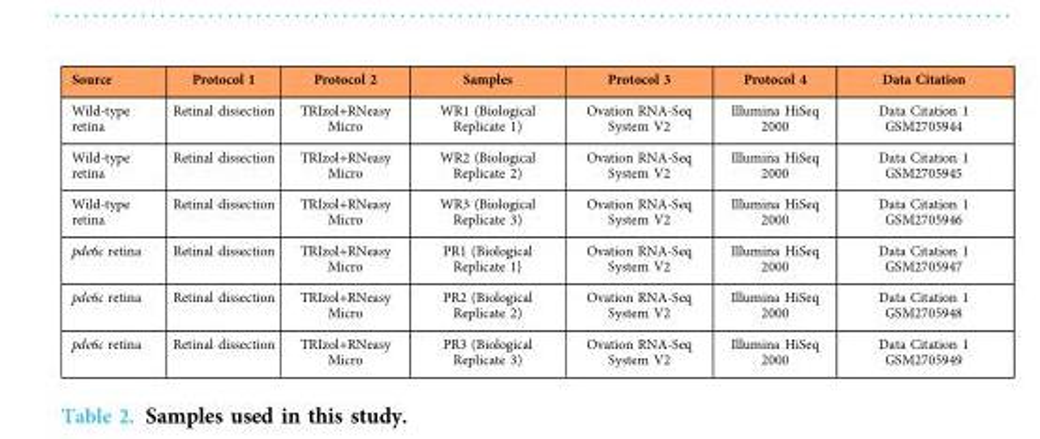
<table><thead><tr><td>Source</td><td>Protocol 1</td><td>Protocol 2</td><td>Samples</td><td>Protocol 3</td><td>Protocol 4</td><td>Data Citation</td></tr></thead><tbody><tr><td>Wild-type retina</td><td>Retinal dissection</td><td>TRIzol+RNeasy Micro</td><td>WR1 (Biological Replicate 1)</td><td>Ovation RNA-Seq System V2</td><td>Illumina HiSeq 2000</td><td>Data Citation 1 GSM2705944</td></tr><tr><td>Wild-type retina</td><td>Retinal dissection</td><td>TRIzol+RNeasy Micro</td><td>WR2 (Biological Replicate 2)</td><td>Ovation RNA-Seq System V2</td><td>Illumina HiSeq 2000</td><td>Data Citation 1 GSM2705945</td></tr><tr><td>Wild-type retina</td><td>Retinal dissection</td><td>TRIzol+RNeasy Micro</td><td>WR3 (Biological Replicate 3)</td><td>Ovation RNA-Seq System V2</td><td>Illumina HiSeq 2000</td><td>Data Citation 1 GSM2705946</td></tr><tr><td>pde6c retina</td><td>Retinal dissection</td><td>TRIzol+RNeasy Micro</td><td>PR1 (Biological Replicate 1}</td><td>Ovation RNA-Seq System V2</td><td>Illumina HiSeq 2000</td><td>Data Citation 1 GSM2705947</td></tr><tr><td>pde6c retina</td><td>Retinal dissection</td><td>TRIzol+RNeasy Micro</td><td>PR2 (Biological Replicate 2)</td><td>Ovation RNA-Seq System V2</td><td>Illumina HiSeq 2000</td><td>Data Citation 1 GSM2705948</td></tr><tr><td>pde6c retina</td><td>Retinal dissection</td><td>TRIzol+RNeasy Micro</td><td>PR3 (Biological Replicate 3)</td><td>Ovation RNA-Seq System V2</td><td>Illumina HiSeq 2000</td><td>Data Citation 1 GSM2705949</td></tr></tbody></table>